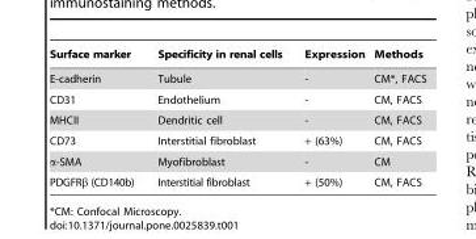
<table><thead><tr><td>Surface marker</td><td>Specificity in renal cells</td><td>Expression</td><td>Methods</td></tr></thead><tbody><tr><td>E-cadherin</td><td>Tubule</td><td>-</td><td>CM*, FACS</td></tr><tr><td>CD31</td><td>Endothelium</td><td>-</td><td>CM, FACS</td></tr><tr><td>MHCII</td><td>Dendritic cell</td><td>-</td><td>CM, FACS</td></tr><tr><td>CD73</td><td>Interstitial fibroblast</td><td>+ (63%)</td><td>CM, FACS</td></tr><tr><td>α-SMA</td><td>Myofibroblast</td><td>-</td><td>CM</td></tr><tr><td>PDGFRβ (CD140b)</td><td>Interstitial fibroblast</td><td>+ (50%)</td><td>CM, FACS</td></tr></tbody></table>